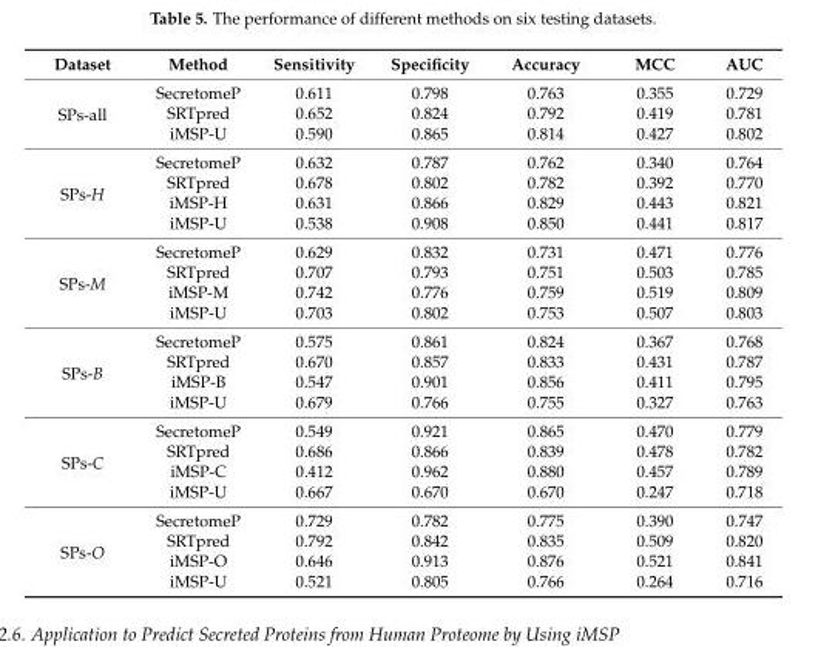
<table><thead><tr><td>Dataset</td><td>Method</td><td>Sensitivity</td><td>Specificity</td><td>Accuracy</td><td>MCC</td><td>AUC</td></tr></thead><tbody><tr><td rowspan="3">SPs-all</td><td>SecretomeP</td><td>0.611</td><td>0.798</td><td>0.763</td><td>0.355</td><td>0.729</td></tr><tr><td>SRTpred</td><td>0.652</td><td>0.824</td><td>0.792</td><td>0.419</td><td>0.781</td></tr><tr><td>iMSP-U</td><td>0.590</td><td>0.865</td><td>0.814</td><td>0.427</td><td>0.802</td></tr><tr><td rowspan="4">SPs-H</td><td>SecretomeP</td><td>0.632</td><td>0.787</td><td>0.762</td><td>0.340</td><td>0.764</td></tr><tr><td>SRTpred</td><td>0.678</td><td>0.802</td><td>0.782</td><td>0.392</td><td>0.770</td></tr><tr><td>iMSP-H</td><td>0.631</td><td>0.866</td><td>0.829</td><td>0.443</td><td>0.821</td></tr><tr><td>iMSP-U</td><td>0.538</td><td>0.908</td><td>0.850</td><td>0.441</td><td>0.817</td></tr><tr><td rowspan="4">SPs-M</td><td>SecretomeP</td><td>0.629</td><td>0.832</td><td>0.731</td><td>0.471</td><td>0.776</td></tr><tr><td>SRTpred</td><td>0.707</td><td>0.793</td><td>0.751</td><td>0.503</td><td>0.785</td></tr><tr><td>iMSP-M</td><td>0.742</td><td>0.776</td><td>0.759</td><td>0.519</td><td>0.809</td></tr><tr><td>iMSP-U</td><td>0.703</td><td>0.802</td><td>0.753</td><td>0.507</td><td>0.803</td></tr><tr><td rowspan="4">SPs-B</td><td>SecretomeP</td><td>0.575</td><td>0.861</td><td>0.824</td><td>0.367</td><td>0.768</td></tr><tr><td>SRTpred</td><td>0.670</td><td>0.857</td><td>0.833</td><td>0.431</td><td>0.787</td></tr><tr><td>iMSP-B</td><td>0.547</td><td>0.901</td><td>0.856</td><td>0.411</td><td>0.795</td></tr><tr><td>iMSP-U</td><td>0.679</td><td>0.766</td><td>0.755</td><td>0.327</td><td>0.763</td></tr><tr><td rowspan="4">SPs-C</td><td>SecretomeP</td><td>0.549</td><td>0.921</td><td>0.865</td><td>0.470</td><td>0.779</td></tr><tr><td>SRTpred</td><td>0.686</td><td>0.866</td><td>0.839</td><td>0.478</td><td>0.782</td></tr><tr><td>iMSP-C</td><td>0.412</td><td>0.962</td><td>0.880</td><td>0.457</td><td>0.789</td></tr><tr><td>iMSP-U</td><td>0.667</td><td>0.670</td><td>0.670</td><td>0.247</td><td>0.718</td></tr><tr><td rowspan="4">SPs-O</td><td>SecretomeP</td><td>0.729</td><td>0.782</td><td>0.775</td><td>0.390</td><td>0.747</td></tr><tr><td>SRTpred</td><td>0.792</td><td>0.842</td><td>0.835</td><td>0.509</td><td>0.820</td></tr><tr><td>iMSP-O</td><td>0.646</td><td>0.913</td><td>0.876</td><td>0.521</td><td>0.841</td></tr><tr><td>iMSP-U</td><td>0.521</td><td>0.805</td><td>0.766</td><td>0.264</td><td>0.716</td></tr></tbody></table>